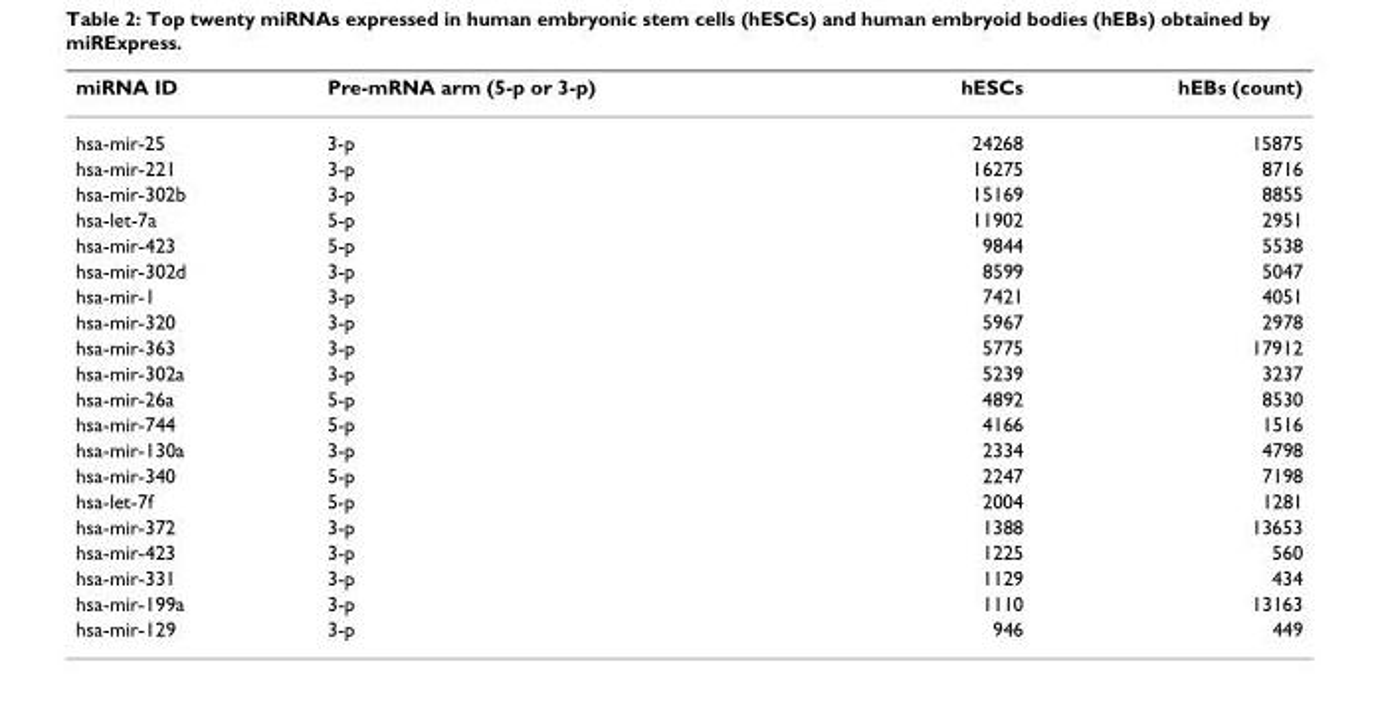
<table><thead><tr><td>miRNA ID</td><td>Pre-mRNA arm (5-p or 3-p)</td><td>hESCs</td><td>hEBs (count)</td></tr></thead><tbody><tr><td>hsa-mir-25</td><td>3-p</td><td>24268</td><td>15875</td></tr><tr><td>hsa-mir-221</td><td>3-p</td><td>16275</td><td>8716</td></tr><tr><td>hsa-mir-302b</td><td>3-p</td><td>15169</td><td>8855</td></tr><tr><td>hsa-let-7a</td><td>5-p</td><td>11902</td><td>2951</td></tr><tr><td>hsa-mir-423</td><td>5-p</td><td>9844</td><td>5538</td></tr><tr><td>hsa-mir-302d</td><td>3-p</td><td>8599</td><td>5047</td></tr><tr><td>hsa-mir-1</td><td>3-p</td><td>7421</td><td>4051</td></tr><tr><td>hsa-mir-320</td><td>3-p</td><td>5967</td><td>2978</td></tr><tr><td>hsa-mir-363</td><td>3-p</td><td>5775</td><td>17912</td></tr><tr><td>hsa-mir-302a</td><td>3-p</td><td>5239</td><td>3237</td></tr><tr><td>hsa-mir-26a</td><td>5-p</td><td>4892</td><td>8530</td></tr><tr><td>hsa-mir-744</td><td>5-p</td><td>4166</td><td>1516</td></tr><tr><td>hsa-mir-130a</td><td>3-p</td><td>2334</td><td>4798</td></tr><tr><td>hsa-mir-340</td><td>5-p</td><td>2247</td><td>7198</td></tr><tr><td>hsa-let-7f</td><td>5-p</td><td>2004</td><td>1281</td></tr><tr><td>hsa-mir-372</td><td>3-p</td><td>1388</td><td>13653</td></tr><tr><td>hsa-mir-423</td><td>3-p</td><td>1225</td><td>560</td></tr><tr><td>hsa-mir-331</td><td>3-p</td><td>1129</td><td>434</td></tr><tr><td>hsa-mir-199a</td><td>3-p</td><td>1110</td><td>13163</td></tr><tr><td>hsa-mir-129</td><td>3-p</td><td>946</td><td>449</td></tr></tbody></table>